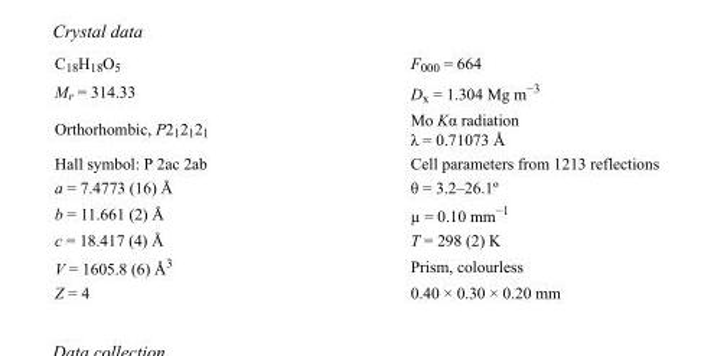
<table><tbody><tr><td>C<sub>18</sub>H<sub>18</sub>O<sub>5</sub></td><td>F<sub>000</sub> = 664</td></tr><tr><td>M<sub>r</sub> = 314.33</td><td>D<sub>x</sub> = 1.304 Mg m<sup>−3</sup></td></tr><tr><td>Orthorhombic, P2<sub>1</sub>2<sub>1</sub>2<sub>1</sub></td><td>Mo Kα radiation λ = 0.71073 Å</td></tr><tr><td>Hall symbol: P 2ac 2ab</td><td>Cell parameters from 1213 reflections</td></tr><tr><td>a = 7.4773 (16) Å</td><td>θ = 3.2–26.1º</td></tr><tr><td>b = 11.661 (2) Å</td><td>µ = 0.10 mm<sup>−1</sup></td></tr><tr><td>c = 18.417 (4) Å</td><td>T = 298 (2) K</td></tr><tr><td>V = 1605.8 (6) Å<sup>3</sup></td><td>Prism, colourless</td></tr><tr><td>Z = 4</td><td>0.40 × 0.30 × 0.20 mm</td></tr></tbody></table>